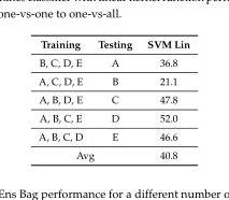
<table><thead><tr><td>Training</td><td>Testing</td><td>SVM Lin</td></tr></thead><tbody><tr><td>B, C, D, E</td><td>A</td><td>36.8</td></tr><tr><td>A, C, D, E</td><td>B</td><td>21.1</td></tr><tr><td>A, B, D, E</td><td>C</td><td>47.8</td></tr><tr><td>A, B, C, E</td><td>D</td><td>52.0</td></tr><tr><td>A, B, C, D</td><td>E</td><td>46.6</td></tr><tr><td colspan="2">Avg</td><td>40.8</td></tr></tbody></table>